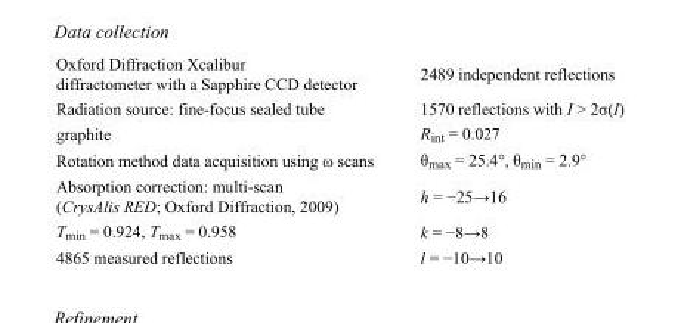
<table><tbody><tr><td>Oxford Diffraction Xcalibur diffractometer with a Sapphire CCD detector</td><td>2489 independent reflections</td></tr><tr><td>Radiation source: fine-focus sealed tube</td><td>1570 reflections with I &gt; 2σ(I)</td></tr><tr><td>graphite</td><td>R<sub>int</sub> = 0.027</td></tr><tr><td>Rotation method data acquisition using ω scans</td><td>θ<sub>max</sub> = 25.4°, θ<sub>min</sub> = 2.9°</td></tr><tr><td>Absorption correction: multi-scan (CrysAlis RED; Oxford Diffraction, 2009)</td><td>h = −25→16</td></tr><tr><td>T<sub>min</sub> = 0.924, T<sub>max</sub> = 0.958</td><td>k = −8→8</td></tr><tr><td>4865 measured reflections</td><td>l = −10→10</td></tr></tbody></table>